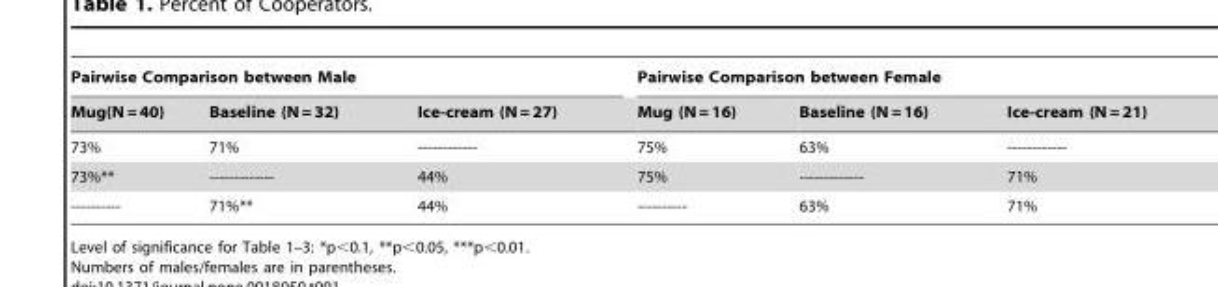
<table><thead><tr><td colspan="3">Pairwise Comparison between Male</td><td colspan="3">Pairwise Comparison between Female</td></tr><tr><td>Mug(N = 40)</td><td>Baseline (N = 32)</td><td>Ice-cream (N = 27)</td><td>Mug (N = 16)</td><td>Baseline (N = 16)</td><td>Ice-cream (N = 21)</td></tr></thead><tbody><tr><td>73%</td><td>71%</td><td>------------</td><td>75%</td><td>63%</td><td>------------</td></tr><tr><td>73%**</td><td>-------------</td><td>44%</td><td>75%</td><td>-------------</td><td>71%</td></tr><tr><td>----------</td><td>71%**</td><td>44%</td><td>----------</td><td>63%</td><td>71%</td></tr></tbody></table>